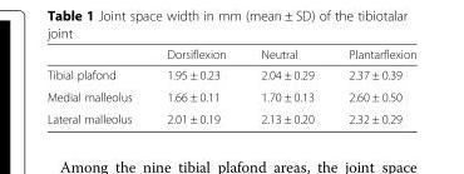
<table><thead><tr><td></td><td>Dorsiflexion</td><td>Neutral</td><td>Plantarflexion</td></tr></thead><tbody><tr><td>Tibial plafond</td><td>1.95 ± 0.23</td><td>2.04 ± 0.29</td><td>2.37 ± 0.39</td></tr><tr><td>Medial malleolus</td><td>1.66 ± 0.11</td><td>1.70 ± 0.13</td><td>2.60 ± 0.50</td></tr><tr><td>Lateral malleolus</td><td>2.01 ± 0.19</td><td>2.13 ± 0.20</td><td>2.32 ± 0.29</td></tr></tbody></table>